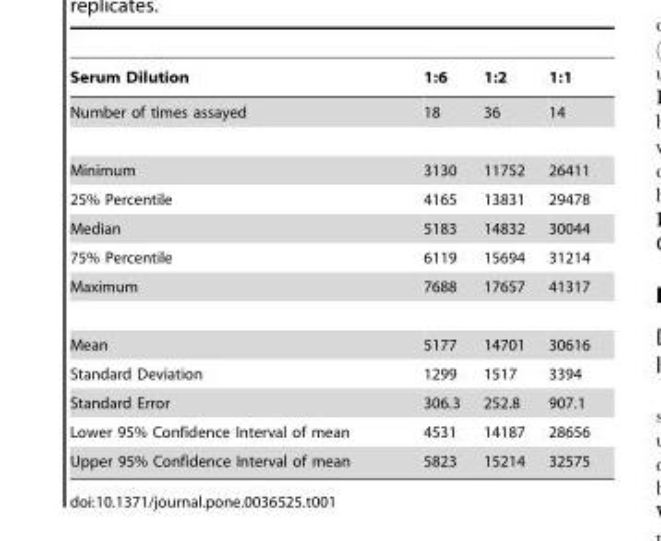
<table><thead><tr><td>Serum Dilution</td><td>1:6</td><td>1:2</td><td>1:1</td></tr></thead><tbody><tr><td>Number of times assayed</td><td>18</td><td>36</td><td>14</td></tr><tr><td>Minimum</td><td>3130</td><td>11752</td><td>26411</td></tr><tr><td>25% Percentile</td><td>4165</td><td>13831</td><td>29478</td></tr><tr><td>Median</td><td>5183</td><td>14832</td><td>30044</td></tr><tr><td>75% Percentile</td><td>6119</td><td>15694</td><td>31214</td></tr><tr><td>Maximum</td><td>7688</td><td>17657</td><td>41317</td></tr><tr><td>Mean</td><td>5177</td><td>14701</td><td>30616</td></tr><tr><td>Standard Deviation</td><td>1299</td><td>1517</td><td>3394</td></tr><tr><td>Standard Error</td><td>306.3</td><td>252.8</td><td>907.1</td></tr><tr><td>Lower 95% Confidence Interval of mean</td><td>4531</td><td>14187</td><td>28656</td></tr><tr><td>Upper 95% Confidence Interval of mean</td><td>5823</td><td>15214</td><td>32575</td></tr></tbody></table>